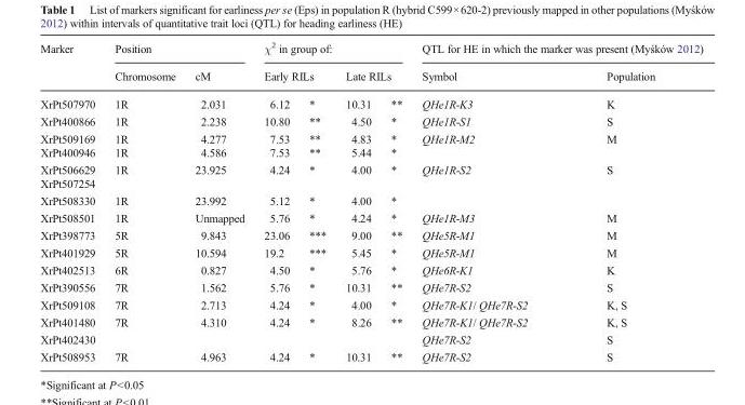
<table><thead><tr><td rowspan="3">Marker XrPt507970</td><td colspan="2">Position</td><td colspan="4">χ<sup>2</sup> in group of:</td><td colspan="2">QTL for HE in which the marker was present (Myśków 2012)</td></tr><tr><td rowspan="2">Chromosome 1R</td><td rowspan="2">cM 2.031</td><td colspan="2">Early RILs</td><td colspan="2">Late RILs</td><td rowspan="2">Symbol QHe1R-K3</td><td rowspan="2">Population K</td></tr><tr><td>6.12</td><td>*</td><td>10.31</td><td>**</td></tr></thead><tbody><tr><td>XrPt400866</td><td>1R</td><td>2.238</td><td>10.80</td><td>**</td><td>4.50</td><td>*</td><td>QHe1R-S1</td><td>S</td></tr><tr><td>XrPt509169</td><td>1R</td><td>4.277</td><td>7.53</td><td>**</td><td>4.83</td><td>*</td><td rowspan="2">QHe1R-M2</td><td rowspan="2">M</td></tr><tr><td>XrPt400946</td><td>1R</td><td>4.586</td><td>7.53</td><td>**</td><td>5.44</td><td>*</td></tr><tr><td>XrPt506629</td><td rowspan="2">1R</td><td rowspan="2">23.925</td><td rowspan="2">4.24</td><td rowspan="2">*</td><td rowspan="2">4.00</td><td rowspan="2">*</td><td rowspan="3">QHe1R-S2</td><td rowspan="3">S</td></tr><tr><td>XrPt507254</td></tr><tr><td>XrPt508330</td><td>1R</td><td>23.992</td><td>5.12</td><td>*</td><td>4.00</td><td>*</td></tr><tr><td>XrPt508501</td><td>1R</td><td>Unmapped</td><td>5.76</td><td>*</td><td>4.24</td><td>*</td><td>QHe1R-M3</td><td>M</td></tr><tr><td>XrPt398773</td><td>5R</td><td>9.843</td><td>23.06</td><td>***</td><td>9.00</td><td>**</td><td>QHe5R-M1</td><td>M</td></tr><tr><td>XrPt401929</td><td>5R</td><td>10.594</td><td>19.2</td><td>***</td><td>5.45</td><td>*</td><td>QHe5R-M1</td><td>M</td></tr><tr><td>XrPt402513</td><td>6R</td><td>0.827</td><td>4.50</td><td>*</td><td>5.76</td><td>*</td><td>QHe6R-K1</td><td>K</td></tr><tr><td>XrPt390556</td><td>7R</td><td>1.562</td><td>5.76</td><td>*</td><td>10.31</td><td>**</td><td>QHe7R-S2</td><td>S</td></tr><tr><td>XrPt509108</td><td>7R</td><td>2.713</td><td>4.24</td><td>*</td><td>4.00</td><td>*</td><td>QHe7R-K1/ QHe7R-S2</td><td>K, S</td></tr><tr><td>XrPt401480</td><td rowspan="2">7R</td><td rowspan="2">4.310</td><td rowspan="2">4.24</td><td rowspan="2">*</td><td rowspan="2">8.26</td><td rowspan="2">**</td><td>QHe7R-K1/ QHe7R-S2</td><td>K, S</td></tr><tr><td>XrPt402430</td><td>QHe7R-S2</td><td>S</td></tr><tr><td>XrPt508953</td><td>7R</td><td>4.963</td><td>4.24</td><td>*</td><td>10.31</td><td>**</td><td>QHe7R-S2</td><td>S</td></tr></tbody></table>